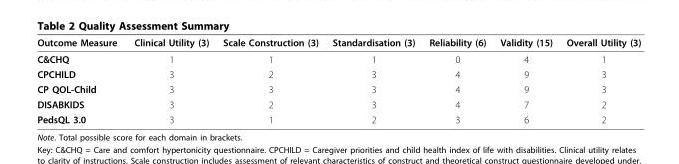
<table><thead><tr><td>Outcome Measure</td><td>Clinical Utility (3)</td><td>Scale Construction (3)</td><td>Standardisation (3)</td><td>Reliability (6)</td><td>Validity (15)</td><td>Overall Utility (3)</td></tr></thead><tbody><tr><td>C&amp;CHQ</td><td>1</td><td>1</td><td>1</td><td>0</td><td>4</td><td>1</td></tr><tr><td>CPCHILD</td><td>3</td><td>2</td><td>3</td><td>4</td><td>9</td><td>3</td></tr><tr><td>CP QOL-Child</td><td>3</td><td>3</td><td>3</td><td>4</td><td>9</td><td>3</td></tr><tr><td>DISABKIDS</td><td>3</td><td>2</td><td>3</td><td>4</td><td>7</td><td>2</td></tr><tr><td>PedsQL 3.0</td><td>3</td><td>1</td><td>2</td><td>3</td><td>6</td><td>2</td></tr></tbody></table>